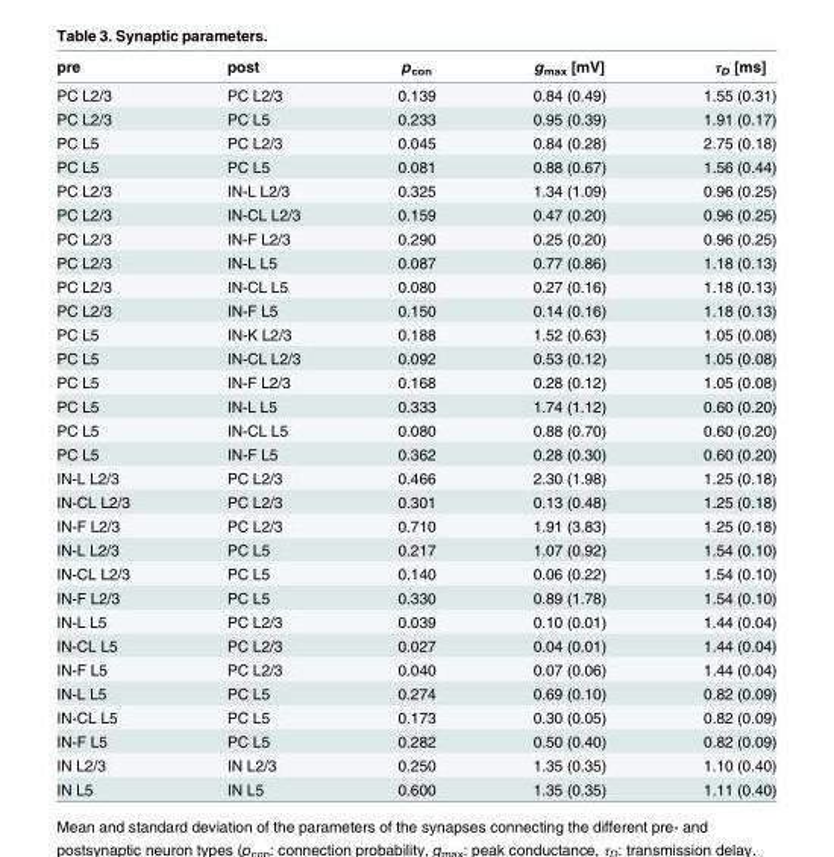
<table><thead><tr><td>pre</td><td>post</td><td>p<sub>con</sub></td><td>g<sub>max</sub> [mV]</td><td>τ<sub>D</sub> [ms]</td></tr></thead><tbody><tr><td>PC L2/3</td><td>PC L2/3</td><td>0.139</td><td>0.84 (0.49)</td><td>1.55 (0.31)</td></tr><tr><td>PC L2/3</td><td>PC L5</td><td>0.233</td><td>0.95 (0.39)</td><td>1.91 (0.17)</td></tr><tr><td>PC L5</td><td>PC L2/3</td><td>0.045</td><td>0.84 (0.28)</td><td>2.75 (0.18)</td></tr><tr><td>PC L5</td><td>PC L5</td><td>0.081</td><td>0.88 (0.67)</td><td>1.56 (0.44)</td></tr><tr><td>PC L2/3</td><td>IN-L L2/3</td><td>0.325</td><td>1.34 (1.09)</td><td>0.96 (0.25)</td></tr><tr><td>PC L2/3</td><td>IN-CL L2/3</td><td>0.159</td><td>0.47 (0.20)</td><td>0.96 (0.25)</td></tr><tr><td>PC L2/3</td><td>IN-F L2/3</td><td>0.290</td><td>0.25 (0.20)</td><td>0.96 (0.25)</td></tr><tr><td>PC L2/3</td><td>IN-L L5</td><td>0.087</td><td>0.77 (0.86)</td><td>1.18 (0.13)</td></tr><tr><td>PC L2/3</td><td>IN-CL L5</td><td>0.080</td><td>0.27 (0.16)</td><td>1.18 (0.13)</td></tr><tr><td>PC L2/3</td><td>IN-F L5</td><td>0.150</td><td>0.14 (0.16)</td><td>1.18 (0.13)</td></tr><tr><td>PC L5</td><td>IN-K L2/3</td><td>0.188</td><td>1.52 (0.63)</td><td>1.05 (0.08)</td></tr><tr><td>PC L5</td><td>IN-CL L2/3</td><td>0.092</td><td>0.53 (0.12)</td><td>1.05 (0.08)</td></tr><tr><td>PC L5</td><td>IN-F L2/3</td><td>0.168</td><td>0.28 (0.12)</td><td>1.05 (0.08)</td></tr><tr><td>PC L5</td><td>IN-L L5</td><td>0.333</td><td>1.74 (1.12)</td><td>0.60 (0.20)</td></tr><tr><td>PC L5</td><td>IN-CL L5</td><td>0.080</td><td>0.88 (0.70)</td><td>0.60 (0.20)</td></tr><tr><td>PC L5</td><td>IN-F L5</td><td>0.362</td><td>0.28 (0.30)</td><td>0.60 (0.20)</td></tr><tr><td>IN-L L2/3</td><td>PC L2/3</td><td>0.466</td><td>2.30 (1.98)</td><td>1.25 (0.18)</td></tr><tr><td>IN-CL L2/3</td><td>PC L2/3</td><td>0.301</td><td>0.13 (0.48)</td><td>1.25 (0.18)</td></tr><tr><td>IN-F L2/3</td><td>PC L2/3</td><td>0.710</td><td>1.91 (3.83)</td><td>1.25 (0.18)</td></tr><tr><td>IN-L L2/3</td><td>PC L5</td><td>0.217</td><td>1.07 (0.92)</td><td>1.54 (0.10)</td></tr><tr><td>IN-CL L2/3</td><td>PC L5</td><td>0.140</td><td>0.06 (0.22)</td><td>1.54 (0.10)</td></tr><tr><td>IN-F L2/3</td><td>PC L5</td><td>0.330</td><td>0.89 (1.78)</td><td>1.54 (0.10)</td></tr><tr><td>IN-L L5</td><td>PC L2/3</td><td>0.039</td><td>0.10 (0.01)</td><td>1.44 (0.04)</td></tr><tr><td>IN-CL L5</td><td>PC L2/3</td><td>0.027</td><td>0.04 (0.01)</td><td>1.44 (0.04)</td></tr><tr><td>IN-F L5</td><td>PC L2/3</td><td>0.040</td><td>0.07 (0.06)</td><td>1.44 (0.04)</td></tr><tr><td>IN-L L5</td><td>PC L5</td><td>0.274</td><td>0.69 (0.10)</td><td>0.82 (0.09)</td></tr><tr><td>IN-CL L5</td><td>PC L5</td><td>0.173</td><td>0.30 (0.05)</td><td>0.82 (0.09)</td></tr><tr><td>IN-F L5</td><td>PC L5</td><td>0.282</td><td>0.50 (0.40)</td><td>0.82 (0.09)</td></tr><tr><td>IN L2/3</td><td>IN L2/3</td><td>0.250</td><td>1.35 (0.35)</td><td>1.10 (0.40)</td></tr><tr><td>IN L5</td><td>IN L5</td><td>0.600</td><td>1.35 (0.35)</td><td>1.11 (0.40)</td></tr></tbody></table>